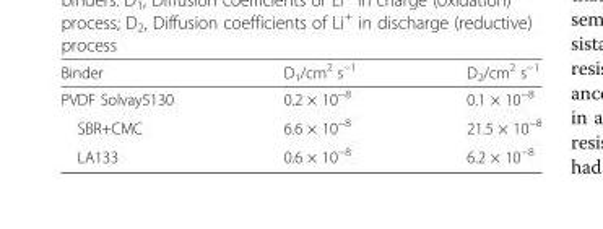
<table><thead><tr><td>Binder</td><td>D<sub>1</sub>/cm<sup>2</sup> s<sup>−1</sup></td><td>D<sub>2</sub>/cm<sup>2</sup> s<sup>−1</sup></td></tr></thead><tbody><tr><td>PVDF Solvay5130</td><td>0.2 × 10<sup>−8</sup></td><td>0.1 × 10<sup>−8</sup></td></tr><tr><td>SBR+CMC</td><td>6.6 × 10<sup>−8</sup></td><td>21.5 × 10<sup>−8</sup></td></tr><tr><td>LA133</td><td>0.6 × 10<sup>−8</sup></td><td>6.2 × 10<sup>−8</sup></td></tr></tbody></table>